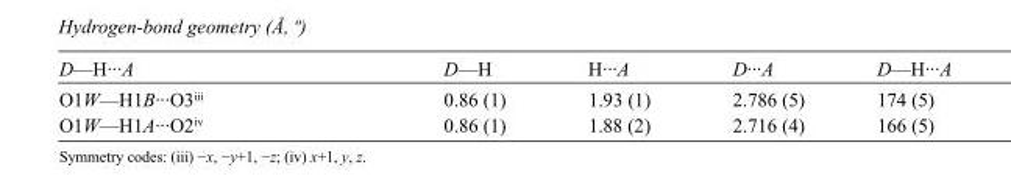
<table><tbody><tr><td>D—H···A</td><td>D—H</td><td>H···A</td><td>D···A</td><td>D—H···A</td></tr><tr><td>O1W—H1B···O3<sup>iii</sup></td><td>0.86 (1)</td><td>1.93 (1)</td><td>2.786 (5)</td><td>174 (5)</td></tr><tr><td>O1W—H1A···O2<sup>iv</sup></td><td>0.86 (1)</td><td>1.88 (2)</td><td>2.716 (4)</td><td>166 (5)</td></tr></tbody></table>